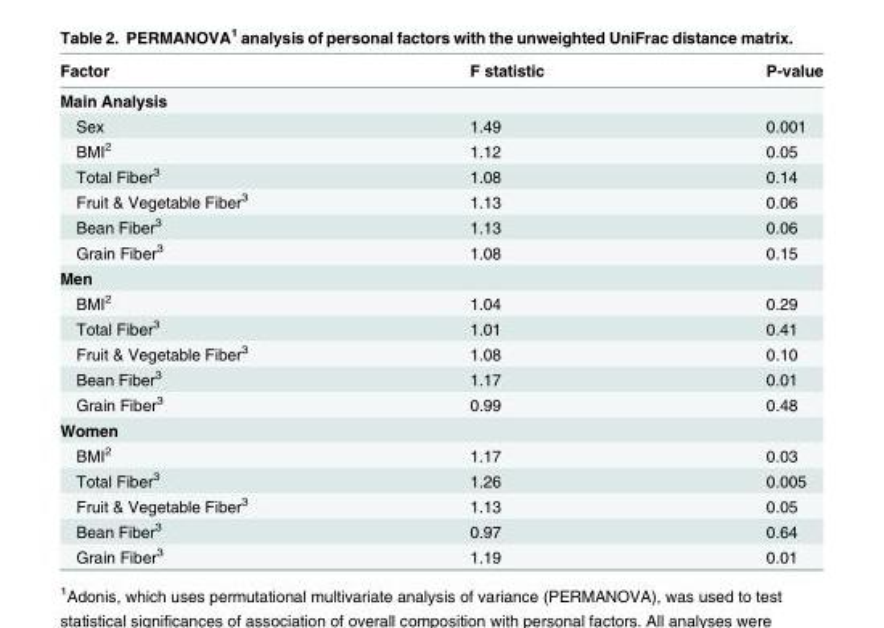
<table><thead><tr><td>Factor</td><td>F statistic</td><td>P-value</td></tr></thead><tbody><tr><td colspan="3">Main Analysis</td></tr><tr><td>Sex</td><td>1.49</td><td>0.001</td></tr><tr><td>BMI<sup>2</sup></td><td>1.12</td><td>0.05</td></tr><tr><td>Total Fiber<sup>3</sup></td><td>1.08</td><td>0.14</td></tr><tr><td>Fruit &amp; Vegetable Fiber<sup>3</sup></td><td>1.13</td><td>0.06</td></tr><tr><td>Bean Fiber<sup>3</sup></td><td>1.13</td><td>0.06</td></tr><tr><td>Grain Fiber<sup>3</sup></td><td>1.08</td><td>0.15</td></tr><tr><td colspan="3">Men</td></tr><tr><td>BMI<sup>2</sup></td><td>1.04</td><td>0.29</td></tr><tr><td>Total Fiber<sup>3</sup></td><td>1.01</td><td>0.41</td></tr><tr><td>Fruit &amp; Vegetable Fiber<sup>3</sup></td><td>1.08</td><td>0.10</td></tr><tr><td>Bean Fiber<sup>3</sup></td><td>1.17</td><td>0.01</td></tr><tr><td>Grain Fiber<sup>3</sup></td><td>0.99</td><td>0.48</td></tr><tr><td colspan="3">Women</td></tr><tr><td>BMI<sup>2</sup></td><td>1.17</td><td>0.03</td></tr><tr><td>Total Fiber<sup>3</sup></td><td>1.26</td><td>0.005</td></tr><tr><td>Fruit &amp; Vegetable Fiber<sup>3</sup></td><td>1.13</td><td>0.05</td></tr><tr><td>Bean Fiber<sup>3</sup></td><td>0.97</td><td>0.64</td></tr><tr><td>Grain Fiber<sup>3</sup></td><td>1.19</td><td>0.01</td></tr></tbody></table>